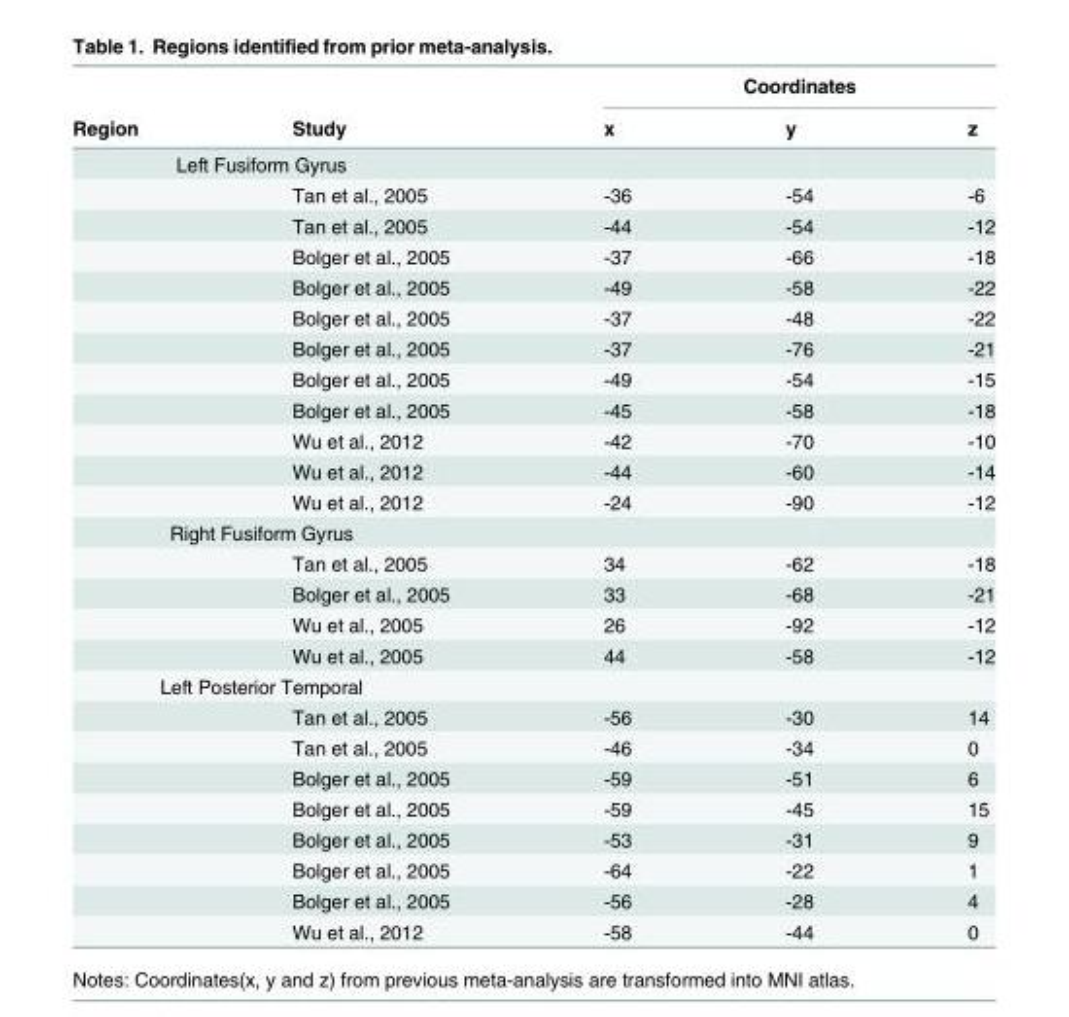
<table><thead><tr><td rowspan="2">Region</td><td rowspan="2">Study</td><td colspan="3">Coordinates</td></tr><tr><td>x</td><td>y</td><td>z</td></tr></thead><tbody><tr><td colspan="5">Left Fusiform Gyrus</td></tr><tr><td></td><td>Tan et al., 2005</td><td>-36</td><td>-54</td><td>-6</td></tr><tr><td></td><td>Tan et al., 2005</td><td>-44</td><td>-54</td><td>-12</td></tr><tr><td></td><td>Bolger et al., 2005</td><td>-37</td><td>-66</td><td>-18</td></tr><tr><td></td><td>Bolger et al., 2005</td><td>-49</td><td>-58</td><td>-22</td></tr><tr><td></td><td>Bolger et al., 2005</td><td>-37</td><td>-48</td><td>-22</td></tr><tr><td></td><td>Bolger et al., 2005</td><td>-37</td><td>-76</td><td>-21</td></tr><tr><td></td><td>Bolger et al., 2005</td><td>-49</td><td>-54</td><td>-15</td></tr><tr><td></td><td>Bolger et al., 2005</td><td>-45</td><td>-58</td><td>-18</td></tr><tr><td></td><td>Wu et al., 2012</td><td>-42</td><td>-70</td><td>-10</td></tr><tr><td></td><td>Wu et al., 2012</td><td>-44</td><td>-60</td><td>-14</td></tr><tr><td></td><td>Wu et al., 2012</td><td>-24</td><td>-90</td><td>-12</td></tr><tr><td colspan="5">Right Fusiform Gyrus</td></tr><tr><td></td><td>Tan et al., 2005</td><td>34</td><td>-62</td><td>-18</td></tr><tr><td></td><td>Bolger et al., 2005</td><td>33</td><td>-68</td><td>-21</td></tr><tr><td></td><td>Wu et al., 2005</td><td>26</td><td>-92</td><td>-12</td></tr><tr><td></td><td>Wu et al., 2005</td><td>44</td><td>-58</td><td>-12</td></tr><tr><td colspan="5">Left Posterior Temporal</td></tr><tr><td></td><td>Tan et al., 2005</td><td>-56</td><td>-30</td><td>14</td></tr><tr><td></td><td>Tan et al., 2005</td><td>-46</td><td>-34</td><td>0</td></tr><tr><td></td><td>Bolger et al., 2005</td><td>-59</td><td>-51</td><td>6</td></tr><tr><td></td><td>Bolger et al., 2005</td><td>-59</td><td>-45</td><td>15</td></tr><tr><td></td><td>Bolger et al., 2005</td><td>-53</td><td>-31</td><td>9</td></tr><tr><td></td><td>Bolger et al., 2005</td><td>-64</td><td>-22</td><td>1</td></tr><tr><td></td><td>Bolger et al., 2005</td><td>-56</td><td>-28</td><td>4</td></tr><tr><td></td><td>Wu et al., 2012</td><td>-58</td><td>-44</td><td>0</td></tr></tbody></table>